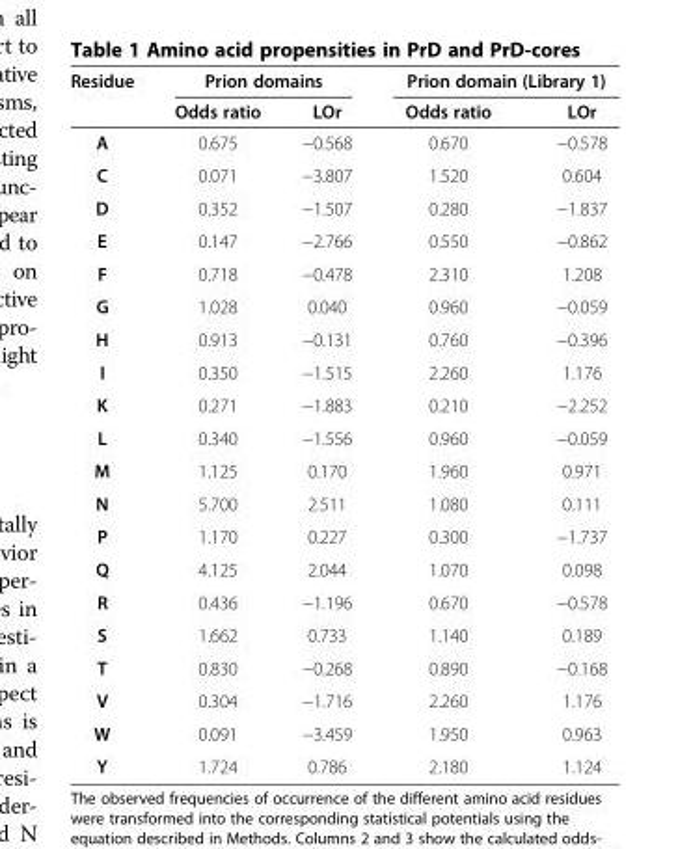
<table><thead><tr><td rowspan="2">Residue</td><td colspan="2">Prion domains</td><td colspan="2">Prion domain (Library 1)</td></tr><tr><td>Odds ratio</td><td>LOr</td><td>Odds ratio</td><td>LOr</td></tr></thead><tbody><tr><td>A</td><td>0.675</td><td>−0.568</td><td>0.670</td><td>−0.578</td></tr><tr><td>C</td><td>0.071</td><td>−3.807</td><td>1.520</td><td>0.604</td></tr><tr><td>D</td><td>0.352</td><td>−1.507</td><td>0.280</td><td>−1.837</td></tr><tr><td>E</td><td>0.147</td><td>−2.766</td><td>0.550</td><td>−0.862</td></tr><tr><td>F</td><td>0.718</td><td>−0.478</td><td>2.310</td><td>1.208</td></tr><tr><td>G</td><td>1.028</td><td>0.040</td><td>0.960</td><td>−0.059</td></tr><tr><td>H</td><td>0.913</td><td>−0.131</td><td>0.760</td><td>−0.396</td></tr><tr><td>I</td><td>0.350</td><td>−1.515</td><td>2.260</td><td>1.176</td></tr><tr><td>K</td><td>0.271</td><td>−1.883</td><td>0.210</td><td>−2.252</td></tr><tr><td>L</td><td>0.340</td><td>−1.556</td><td>0.960</td><td>−0.059</td></tr><tr><td>M</td><td>1.125</td><td>0.170</td><td>1.960</td><td>0.971</td></tr><tr><td>N</td><td>5.700</td><td>2.511</td><td>1.080</td><td>0.111</td></tr><tr><td>P</td><td>1.170</td><td>0.227</td><td>0.300</td><td>−1.737</td></tr><tr><td>Q</td><td>4.125</td><td>2.044</td><td>1.070</td><td>0.098</td></tr><tr><td>R</td><td>0.436</td><td>−1.196</td><td>0.670</td><td>−0.578</td></tr><tr><td>S</td><td>1.662</td><td>0.733</td><td>1.140</td><td>0.189</td></tr><tr><td>T</td><td>0.830</td><td>−0.268</td><td>0.890</td><td>−0.168</td></tr><tr><td>V</td><td>0.304</td><td>−1.716</td><td>2.260</td><td>1.176</td></tr><tr><td>W</td><td>0.091</td><td>−3.459</td><td>1.950</td><td>0.963</td></tr><tr><td>Y</td><td>1.724</td><td>0.786</td><td>2.180</td><td>1.124</td></tr></tbody></table>